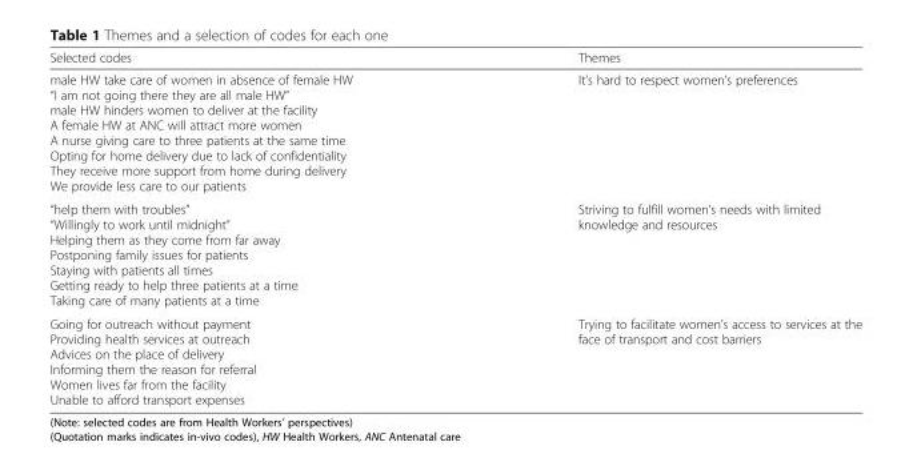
<table><thead><tr><td>Selected codes</td><td>Themes</td></tr></thead><tbody><tr><td>male HW take care of women in absence of female HW “I am not going there they are all male HW” male HW hinders women to deliver at the facility A female HW at ANC will attract more women A nurse giving care to three patients at the same time Opting for home delivery due to lack of confidentiality They receive more support from home during delivery We provide less care to our patients</td><td>It’s hard to respect women’s preferences</td></tr><tr><td>“help them with troubles” “Willingly to work until midnight” Helping them as they come from far away Postponing family issues for patients Staying with patients all times Getting ready to help three patients at a time Taking care of many patients at a time</td><td>Striving to fulfill women’s needs with limited knowledge and resources</td></tr><tr><td>Going for outreach without payment Providing health services at outreach Advices on the place of delivery Informing them the reason for referral Women lives far from the facility Unable to afford transport expenses</td><td>Trying to facilitate women’s access to services at the face of transport and cost barriers</td></tr></tbody></table>